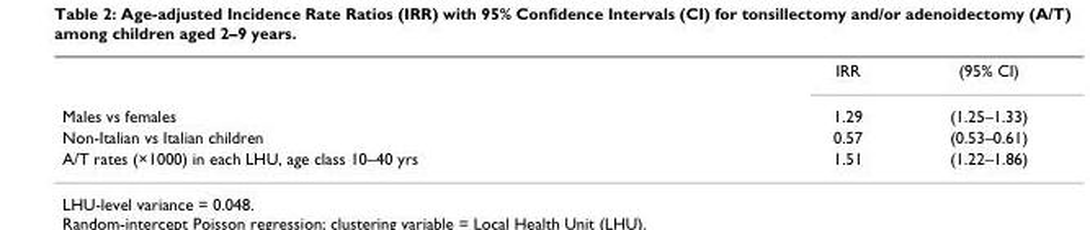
<table><thead><tr><td></td><td>IRR</td><td>(95% CI)</td></tr></thead><tbody><tr><td>Males vs females</td><td>1.29</td><td>(1.25–1.33)</td></tr><tr><td>Non-Italian vs Italian children</td><td>0.57</td><td>(0.53–0.61)</td></tr><tr><td>A/T rates (×1000) in each LHU, age class 10–40 yrs</td><td>1.51</td><td>(1.22–1.86)</td></tr></tbody></table>